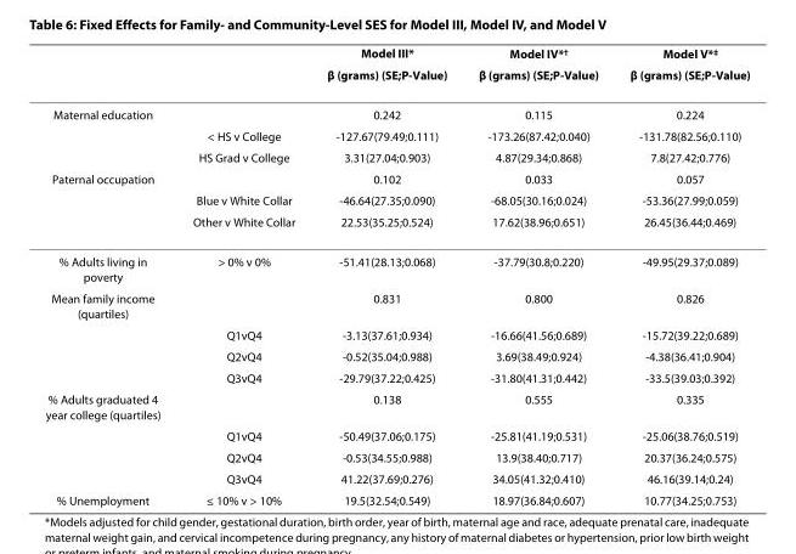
<table><thead><tr><td rowspan="2"></td><td rowspan="2"></td><td rowspan="2">Model III* β (grams) (SE;P-Value)</td><td rowspan="2">Model IV*<sup>†</sup> β (grams) (SE;P-Value)</td><td rowspan="2">Model V*<sup>‡</sup> β (grams) (SE;P-Value)</td></tr><tr></tr></thead><tbody><tr><td rowspan="3">Maternal education</td><td></td><td>0.242</td><td>0.115</td><td>0.224</td></tr><tr><td>&lt; HS v College</td><td>-127.67(79.49;0.111)</td><td>-173.26(87.42;0.040)</td><td>-131.78(82.56;0.110)</td></tr><tr><td>HS Grad v College</td><td>3.31(27.04;0.903)</td><td>4.87(29.34;0.868)</td><td>7.8(27.42;0.776)</td></tr><tr><td rowspan="3">Paternal occupation</td><td></td><td>0.102</td><td>0.033</td><td>0.057</td></tr><tr><td>Blue v White Collar</td><td>-46.64(27.35;0.090)</td><td>-68.05(30.16;0.024)</td><td>-53.36(27.99;0.059)</td></tr><tr><td>Other v White Collar</td><td>22.53(35.25;0.524)</td><td>17.62(38.96;0.651)</td><td>26.45(36.44;0.469)</td></tr><tr><td>% Adults living in poverty</td><td>&gt; 0% v 0%</td><td>-51.41(28.13;0.068)</td><td>-37.79(30.8;0.220)</td><td>-49.95(29.37;0.089)</td></tr><tr><td rowspan="4">Mean family income (quartiles)</td><td></td><td>0.831</td><td>0.800</td><td>0.826</td></tr><tr><td>Q1vQ4</td><td>-3.13(37.61;0.934)</td><td>-16.66(41.56;0.689)</td><td>-15.72(39.22;0.689)</td></tr><tr><td>Q2vQ4</td><td>-0.52(35.04;0.988)</td><td>3.69(38.49;0.924)</td><td>-4.38(36.41;0.904)</td></tr><tr><td>Q3vQ4</td><td>-29.79(37.22;0.425)</td><td>-31.80(41.31;0.442)</td><td>-33.5(39.03;0.392)</td></tr><tr><td rowspan="4">% Adults graduated 4 year college (quartiles)</td><td></td><td>0.138</td><td>0.555</td><td>0.335</td></tr><tr><td>Q1vQ4</td><td>-50.49(37.06;0.175)</td><td>-25.81(41.19;0.531)</td><td>-25.06(38.76;0.519)</td></tr><tr><td>Q2vQ4</td><td>-0.53(34.55;0.988)</td><td>13.9(38.40;0.717)</td><td>20.37(36.24;0.575)</td></tr><tr><td>Q3vQ4</td><td>41.22(37.69;0.276)</td><td>34.05(41.32;0.410)</td><td>46.16(39.14;0.24)</td></tr><tr><td>% Unemployment</td><td>≤ 10% v &gt; 10%</td><td>19.5(32.54;0.549)</td><td>18.97(36.84;0.607)</td><td>10.77(34.25;0.753)</td></tr></tbody></table>